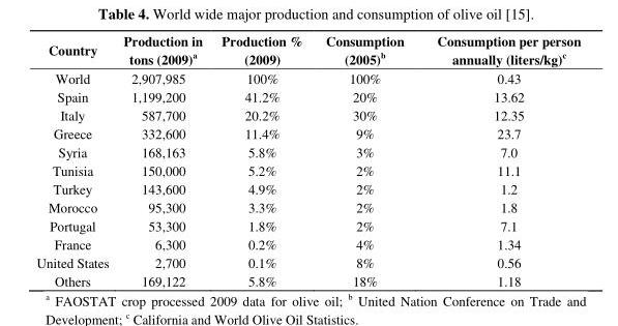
<table><thead><tr><td>Country</td><td>Production in tons (2009)<sup>a</sup></td><td>Production % (2009)</td><td>Consumption (2005)<sup>b</sup></td><td>Consumption per person annually (liters/kg)<sup>c</sup></td></tr></thead><tbody><tr><td>World</td><td>2,907,985</td><td>100%</td><td>100%</td><td>0.43</td></tr><tr><td>Spain</td><td>1,199,200</td><td>41.2%</td><td>20%</td><td>13.62</td></tr><tr><td>Italy</td><td>587,700</td><td>20.2%</td><td>30%</td><td>12.35</td></tr><tr><td>Greece</td><td>332,600</td><td>11.4%</td><td>9%</td><td>23.7</td></tr><tr><td>Syria</td><td>168,163</td><td>5.8%</td><td>3%</td><td>7.0</td></tr><tr><td>Tunisia</td><td>150,000</td><td>5.2%</td><td>2%</td><td>11.1</td></tr><tr><td>Turkey</td><td>143,600</td><td>4.9%</td><td>2%</td><td>1.2</td></tr><tr><td>Morocco</td><td>95,300</td><td>3.3%</td><td>2%</td><td>1.8</td></tr><tr><td>Portugal</td><td>53,300</td><td>1.8%</td><td>2%</td><td>7.1</td></tr><tr><td>France</td><td>6,300</td><td>0.2%</td><td>4%</td><td>1.34</td></tr><tr><td>United States</td><td>2,700</td><td>0.1%</td><td>8%</td><td>0.56</td></tr><tr><td>Others</td><td>169,122</td><td>5.8%</td><td>18%</td><td>1.18</td></tr></tbody></table>